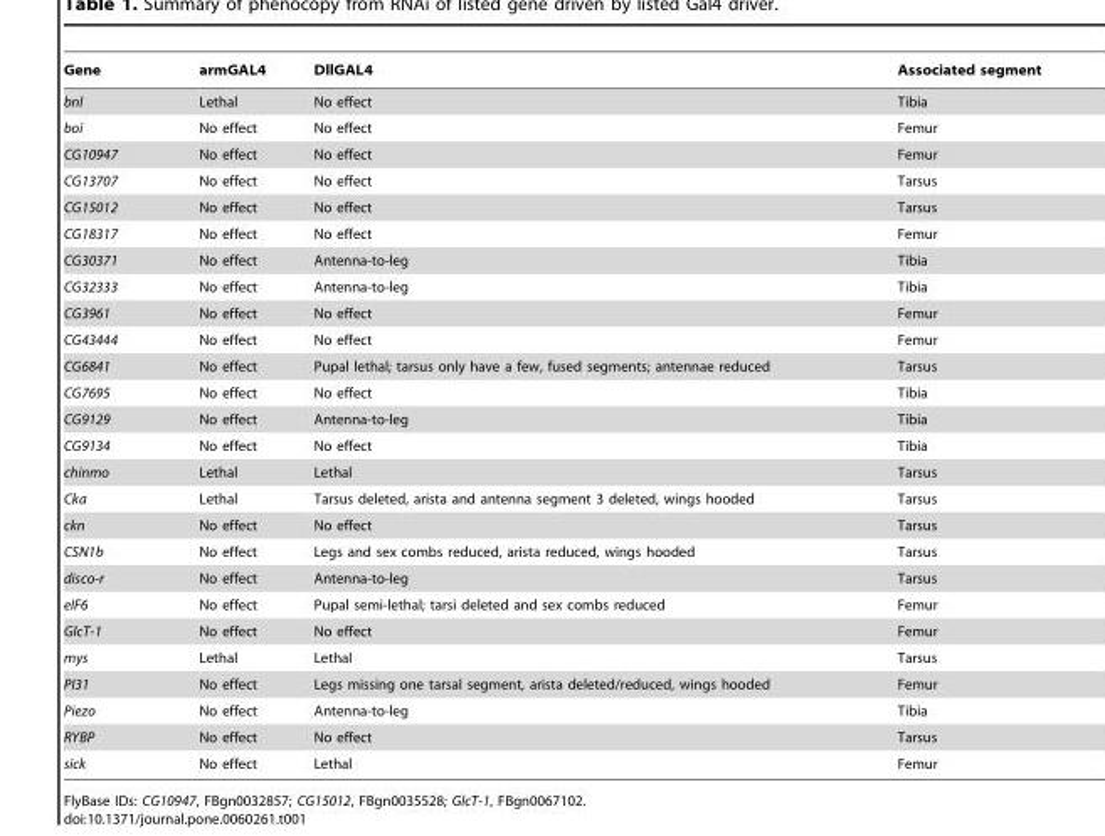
<table><thead><tr><td>Gene</td><td>armGAL4</td><td>DllGAL4</td><td>Associated segment</td></tr></thead><tbody><tr><td>bnl</td><td>Lethal</td><td>No effect</td><td>Tibia</td></tr><tr><td>boi</td><td>No effect</td><td>No effect</td><td>Femur</td></tr><tr><td>CG10947</td><td>No effect</td><td>No effect</td><td>Femur</td></tr><tr><td>CG13707</td><td>No effect</td><td>No effect</td><td>Tarsus</td></tr><tr><td>CG15012</td><td>No effect</td><td>No effect</td><td>Tarsus</td></tr><tr><td>CG18317</td><td>No effect</td><td>No effect</td><td>Femur</td></tr><tr><td>CG30371</td><td>No effect</td><td>Antenna-to-leg</td><td>Tibia</td></tr><tr><td>CG32333</td><td>No effect</td><td>Antenna-to-leg</td><td>Tibia</td></tr><tr><td>CG3961</td><td>No effect</td><td>No effect</td><td>Femur</td></tr><tr><td>CG43444</td><td>No effect</td><td>No effect</td><td>Femur</td></tr><tr><td>CG6841</td><td>No effect</td><td>Pupal lethal; tarsus only have a few, fused segments; antennae reduced</td><td>Tarsus</td></tr><tr><td>CG7695</td><td>No effect</td><td>No effect</td><td>Tibia</td></tr><tr><td>CG9129</td><td>No effect</td><td>Antenna-to-leg</td><td>Tibia</td></tr><tr><td>CG9134</td><td>No effect</td><td>No effect</td><td>Tibia</td></tr><tr><td>chinmo</td><td>Lethal</td><td>Lethal</td><td>Tarsus</td></tr><tr><td>Cka</td><td>Lethal</td><td>Tarsus deleted, arista and antenna segment 3 deleted, wings hooded</td><td>Tarsus</td></tr><tr><td>ckn</td><td>No effect</td><td>No effect</td><td>Tarsus</td></tr><tr><td>CSN1b</td><td>No effect</td><td>Legs and sex combs reduced, arista reduced, wings hooded</td><td>Tarsus</td></tr><tr><td>disco-r</td><td>No effect</td><td>Antenna-to-leg</td><td>Tarsus</td></tr><tr><td>eIF6</td><td>No effect</td><td>Pupal semi-lethal; tarsi deleted and sex combs reduced</td><td>Femur</td></tr><tr><td>GlcT-1</td><td>No effect</td><td>No effect</td><td>Femur</td></tr><tr><td>mys</td><td>Lethal</td><td>Lethal</td><td>Tarsus</td></tr><tr><td>PI31</td><td>No effect</td><td>Legs missing one tarsal segment, arista deleted/reduced, wings hooded</td><td>Femur</td></tr><tr><td>Piezo</td><td>No effect</td><td>Antenna-to-leg</td><td>Tibia</td></tr><tr><td>RYBP</td><td>No effect</td><td>No effect</td><td>Tarsus</td></tr><tr><td>sick</td><td>No effect</td><td>Lethal</td><td>Femur</td></tr></tbody></table>